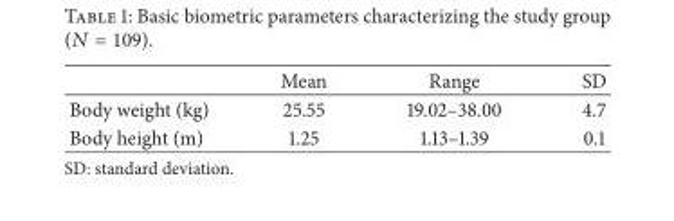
<table><thead><tr><td></td><td>Mean</td><td>Range</td><td>SD</td></tr></thead><tbody><tr><td>Body weight (kg)</td><td>25.55</td><td>19.02–38.00</td><td>4.7</td></tr><tr><td>Body height (m)</td><td>1.25</td><td>1.13–1.39</td><td>0.1</td></tr></tbody></table>